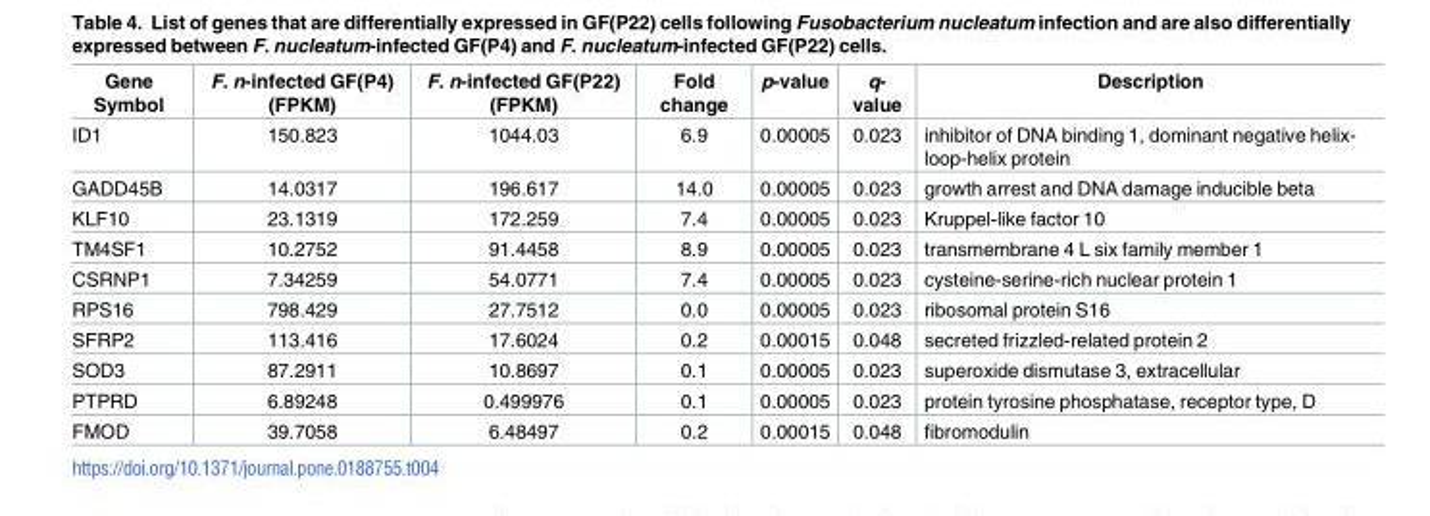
<table><thead><tr><td>Gene Symbol</td><td>F. n-infected GF(P4) (FPKM)</td><td>F. n-infected GF(P22) (FPKM)</td><td>Fold change</td><td>p-value</td><td>q- value</td><td>Description</td></tr></thead><tbody><tr><td>ID1</td><td>150.823</td><td>1044.03</td><td>6.9</td><td>0.00005</td><td>0.023</td><td>inhibitor of DNA binding 1, dominant negative helix- loop-helix protein</td></tr><tr><td>GADD45B</td><td>14.0317</td><td>196.617</td><td>14.0</td><td>0.00005</td><td>0.023</td><td>growth arrest and DNA damage inducible beta</td></tr><tr><td>KLF10</td><td>23.1319</td><td>172.259</td><td>7.4</td><td>0.00005</td><td>0.023</td><td>Kruppel-like factor 10</td></tr><tr><td>TM4SF1</td><td>10.2752</td><td>91.4458</td><td>8.9</td><td>0.00005</td><td>0.023</td><td>transmembrane 4 L six family member 1</td></tr><tr><td>CSRNP1</td><td>7.34259</td><td>54.0771</td><td>7.4</td><td>0.00005</td><td>0.023</td><td>cysteine-serine-rich nuclear protein 1</td></tr><tr><td>RPS16</td><td>798.429</td><td>27.7512</td><td>0.0</td><td>0.00005</td><td>0.023</td><td>ribosomal protein S16</td></tr><tr><td>SFRP2</td><td>113.416</td><td>17.6024</td><td>0.2</td><td>0.00015</td><td>0.048</td><td>secreted frizzled-related protein 2</td></tr><tr><td>SOD3</td><td>87.2911</td><td>10.8697</td><td>0.1</td><td>0.00005</td><td>0.023</td><td>superoxide dismutase 3, extracellular</td></tr><tr><td>PTPRD</td><td>6.89248</td><td>0.499976</td><td>0.1</td><td>0.00005</td><td>0.023</td><td>protein tyrosine phosphatase, receptor type, D</td></tr><tr><td>FMOD</td><td>39.7058</td><td>6.48497</td><td>0.2</td><td>0.00015</td><td>0.048</td><td>fibromodulin</td></tr></tbody></table>